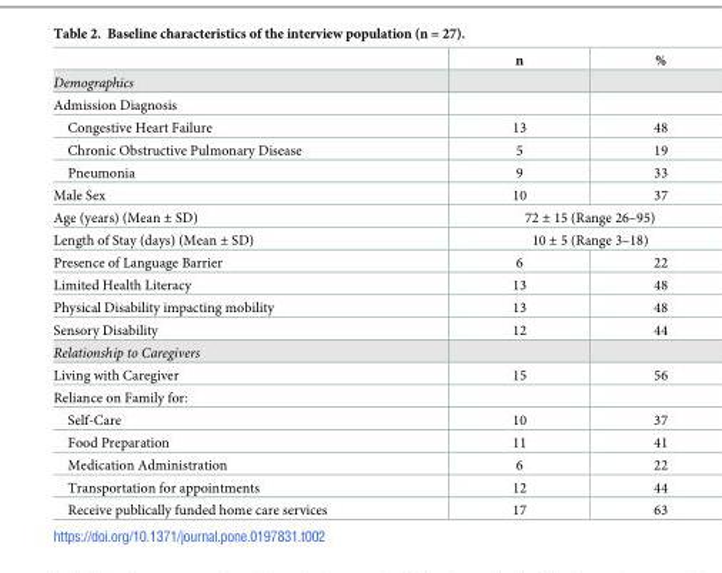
<table><thead><tr><td></td><td>n</td><td>%</td></tr></thead><tbody><tr><td colspan="3">Demographics</td></tr><tr><td colspan="3">Admission Diagnosis</td></tr><tr><td>Congestive Heart Failure</td><td>13</td><td>48</td></tr><tr><td>Chronic Obstructive Pulmonary Disease</td><td>5</td><td>19</td></tr><tr><td>Pneumonia</td><td>9</td><td>33</td></tr><tr><td>Male Sex</td><td>10</td><td>37</td></tr><tr><td>Age (years) (Mean ± SD)</td><td colspan="2">72 ± 15 (Range 26–95)</td></tr><tr><td>Length of Stay (days) (Mean ± SD)</td><td colspan="2">10 ± 5 (Range 3–18)</td></tr><tr><td>Presence of Language Barrier</td><td>6</td><td>22</td></tr><tr><td>Limited Health Literacy</td><td>13</td><td>48</td></tr><tr><td>Physical Disability impacting mobility</td><td>13</td><td>48</td></tr><tr><td>Sensory Disability</td><td>12</td><td>44</td></tr><tr><td colspan="3">Relationship to Caregivers</td></tr><tr><td>Living with Caregiver</td><td>15</td><td>56</td></tr><tr><td colspan="3">Reliance on Family for:</td></tr><tr><td>Self-Care</td><td>10</td><td>37</td></tr><tr><td>Food Preparation</td><td>11</td><td>41</td></tr><tr><td>Medication Administration</td><td>6</td><td>22</td></tr><tr><td>Transportation for appointments</td><td>12</td><td>44</td></tr><tr><td>Receive publically funded home care services</td><td>17</td><td>63</td></tr></tbody></table>